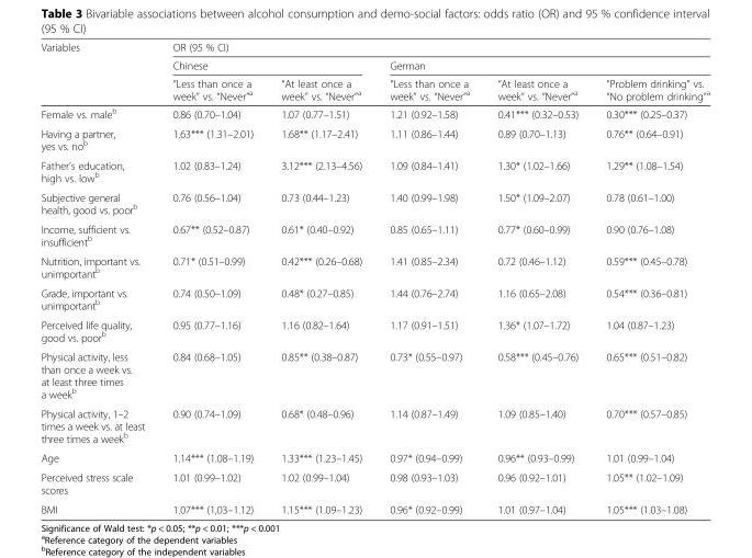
<table><thead><tr><td rowspan="3">Variables</td><td colspan="5">OR (95 % CI)</td></tr><tr><td colspan="2">Chinese</td><td colspan="3">German</td></tr><tr><td>“Less than once a week” vs. “Never”<sup>a</sup></td><td>“At least once a week” vs. “Never”<sup>a</sup></td><td>“Less than once a week” vs. “Never”<sup>a</sup></td><td>“At least once a week” vs. “Never”<sup>a</sup></td><td>“Problem drinking” vs. “No problem drinking”<sup>a</sup></td></tr></thead><tbody><tr><td>Female vs. male<sup>b</sup></td><td>0.86 (0.70–1.04)</td><td>1.07 (0.77–1.51)</td><td>1.21 (0.92–1.58)</td><td>0.41*** (0.32–0.53)</td><td>0.30*** (0.25–0.37)</td></tr><tr><td>Having a partner, yes vs. no<sup>b</sup></td><td>1.63*** (1.31–2.01)</td><td>1.68** (1.17–2.41)</td><td>1.11 (0.86–1.44)</td><td>0.89 (0.70–1.13)</td><td>0.76** (0.64–0.91)</td></tr><tr><td>Father’s education, high vs. low<sup>b</sup></td><td>1.02 (0.83–1.24)</td><td>3.12*** (2.13–4.56)</td><td>1.09 (0.84–1.41)</td><td>1.30* (1.02–1.66)</td><td>1.29** (1.08–1.54)</td></tr><tr><td>Subjective general health, good vs. poor<sup>b</sup></td><td>0.76 (0.56–1.04)</td><td>0.73 (0.44–1.23)</td><td>1.40 (0.99–1.98)</td><td>1.50* (1.09–2.07)</td><td>0.78 (0.61–1.00)</td></tr><tr><td>Income, sufficient vs. insufficient<sup>b</sup></td><td>0.67** (0.52–0.87)</td><td>0.61* (0.40–0.92)</td><td>0.85 (0.65–1.11)</td><td>0.77* (0.60–0.99)</td><td>0.90 (0.76–1.08)</td></tr><tr><td>Nutrition, important vs. unimportant<sup>b</sup></td><td>0.71* (0.51–0.99)</td><td>0.42*** (0.26–0.68)</td><td>1.41 (0.85–2.34)</td><td>0.72 (0.46–1.12)</td><td>0.59*** (0.45–0.78)</td></tr><tr><td>Grade, important vs. unimportant<sup>b</sup></td><td>0.74 (0.50–1.09)</td><td>0.48* (0.27–0.85)</td><td>1.44 (0.76–2.74)</td><td>1.16 (0.65–2.08)</td><td>0.54*** (0.36–0.81)</td></tr><tr><td>Perceived life quality, good vs. poor<sup>b</sup></td><td>0.95 (0.77–1.16)</td><td>1.16 (0.82–1.64)</td><td>1.17 (0.91–1.51)</td><td>1.36* (1.07–1.72)</td><td>1.04 (0.87–1.23)</td></tr><tr><td>Physical activity, less than once a week vs. at least three times a week<sup>b</sup></td><td>0.84 (0.68–1.05)</td><td>0.85** (0.38–0.87)</td><td>0.73* (0.55–0.97)</td><td>0.58*** (0.45–0.76)</td><td>0.65*** (0.51–0.82)</td></tr><tr><td>Physical activity, 1–2 times a week vs. at least three times a week<sup>b</sup></td><td>0.90 (0.74–1.09)</td><td>0.68* (0.48–0.96)</td><td>1.14 (0.87–1.49)</td><td>1.09 (0.85–1.40)</td><td>0.70*** (0.57–0.85)</td></tr><tr><td>Age</td><td>1.14*** (1.08–1.19)</td><td>1.33*** (1.23–1.45)</td><td>0.97* (0.94–0.99)</td><td>0.96** (0.93–0.99)</td><td>1.01 (0.99–1.04)</td></tr><tr><td>Perceived stress scale scores</td><td>1.01 (0.99–1.02)</td><td>1.02 (0.99–1.04)</td><td>0.98 (0.93–1.03)</td><td>0.96 (0.92–1.01)</td><td>1.05** (1.02–1.09)</td></tr><tr><td>BMI</td><td>1.07*** (1,03–1.12)</td><td>1.15*** (1.09–1.23)</td><td>0.96* (0.92–0.99)</td><td>1.01 (0.97–1.04)</td><td>1.05*** (1.03–1.08)</td></tr></tbody></table>